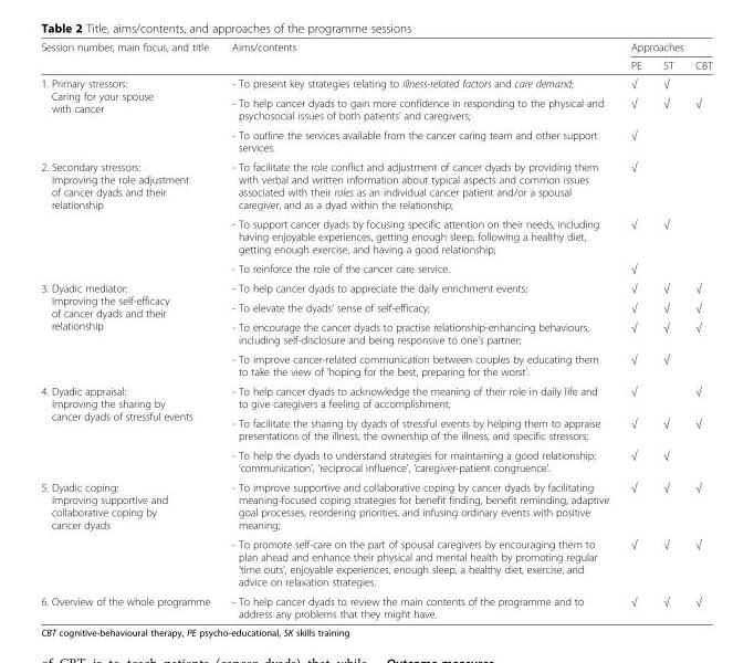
<table><thead><tr><td rowspan="2">Session number, main focus, and title</td><td rowspan="2">Aims/contents</td><td colspan="3">Approaches</td></tr><tr><td>PE</td><td>ST</td><td>CBT</td></tr></thead><tbody><tr><td rowspan="3">1. Primary stressors: Caring for your spouse with cancer</td><td>- To present key strategies relating to illness-related factors and care demand;</td><td>√</td><td>√</td><td></td></tr><tr><td>- To help cancer dyads to gain more confidence in responding to the physical and psychosocial issues of both patients’ and caregivers;</td><td>√</td><td>√</td><td>√</td></tr><tr><td>- To outline the services available from the cancer caring team and other support services.</td><td>√</td><td></td><td></td></tr><tr><td rowspan="3">2. Secondary stressors: Improving the role adjustment of cancer dyads and their relationship</td><td>- To facilitate the role conflict and adjustment of cancer dyads by providing them with verbal and written information about typical aspects and common issues associated with their roles as an individual cancer patient and/or a spousal caregiver, and as a dyad within the relationship;</td><td>√</td><td></td><td></td></tr><tr><td>- To support cancer dyads by focusing specific attention on their needs, including having enjoyable experiences, getting enough sleep, following a healthy diet, getting enough exercise, and having a good relationship;</td><td>√</td><td>√</td><td></td></tr><tr><td>- To reinforce the role of the cancer care service.</td><td>√</td><td></td><td></td></tr><tr><td rowspan="4">3. Dyadic mediator: Improving the self-efficacy of cancer dyads and their relationship</td><td>- To help cancer dyads to appreciate the daily enrichment events;</td><td>√</td><td>√</td><td>√</td></tr><tr><td>- To elevate the dyads’ sense of self-efficacy;</td><td>√</td><td>√</td><td>√</td></tr><tr><td>- To encourage the cancer dyads to practise relationship-enhancing behaviours, including self-disclosure and being responsive to one’s partner;</td><td>√</td><td>√</td><td>√</td></tr><tr><td>- To improve cancer-related communication between couples by educating them to take the view of ‘hoping for the best, preparing for the worst’.</td><td>√</td><td>√</td><td></td></tr><tr><td rowspan="3">4. Dyadic appraisal: Improving the sharing by cancer dyads of stressful events</td><td>- To help cancer dyads to acknowledge the meaning of their role in daily life and to give caregivers a feeling of accomplishment;</td><td>√</td><td></td><td>√</td></tr><tr><td>- To facilitate the sharing by dyads of stressful events by helping them to appraise presentations of the illness, the ownership of the illness, and specific stressors;</td><td>√</td><td>√</td><td>√</td></tr><tr><td>- To help the dyads to understand strategies for maintaining a good relationship: ‘communication’, ‘reciprocal influence’, ‘caregiver-patient congruence’.</td><td>√</td><td>√</td><td></td></tr><tr><td rowspan="2">5. Dyadic coping: Improving supportive and collaborative coping by cancer dyads</td><td>- To improve supportive and collaborative coping by cancer dyads by facilitating meaning-focused coping strategies for benefit finding, benefit reminding, adaptive goal processes, reordering priorities, and infusing ordinary events with positive meaning;</td><td>√</td><td>√</td><td>√</td></tr><tr><td>- To promote self-care on the part of spousal caregivers by encouraging them to plan ahead and enhance their physical and mental health by promoting regular ‘time outs’, enjoyable experiences, enough sleep, a healthy diet, exercise, and advice on relaxation strategies.</td><td>√</td><td>√</td><td>√</td></tr><tr><td>6. Overview of the whole programme</td><td>- To help cancer dyads to review the main contents of the programme and to address any problems that they might have.</td><td>√</td><td>√</td><td>√</td></tr></tbody></table>